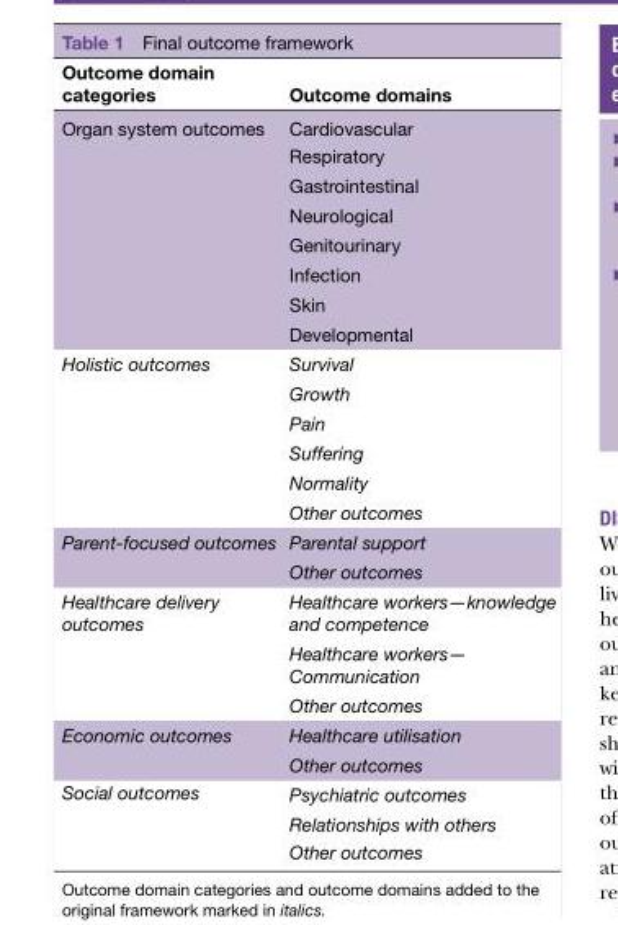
<table><thead><tr><td>Outcome domain categories</td><td>Outcome domains</td></tr></thead><tbody><tr><td rowspan="8">Organ system outcomes</td><td>Cardiovascular</td></tr><tr><td>Respiratory</td></tr><tr><td>Gastrointestinal</td></tr><tr><td>Neurological</td></tr><tr><td>Genitourinary</td></tr><tr><td>Infection</td></tr><tr><td>Skin</td></tr><tr><td>Developmental</td></tr><tr><td rowspan="6">Holistic outcomes</td><td>Survival</td></tr><tr><td>Growth</td></tr><tr><td>Pain</td></tr><tr><td>Suffering</td></tr><tr><td>Normality</td></tr><tr><td>Other outcomes</td></tr><tr><td rowspan="2">Parent-focused outcomes</td><td>Parental support</td></tr><tr><td>Other outcomes</td></tr><tr><td rowspan="3">Healthcare delivery outcomes</td><td>Healthcare workers—knowledge and competence</td></tr><tr><td>Healthcare workers— Communication</td></tr><tr><td>Other outcomes</td></tr><tr><td rowspan="2">Economic outcomes</td><td>Healthcare utilisation</td></tr><tr><td>Other outcomes</td></tr><tr><td rowspan="3">Social outcomes</td><td>Psychiatric outcomes</td></tr><tr><td>Relationships with others</td></tr><tr><td>Other outcomes</td></tr></tbody></table>